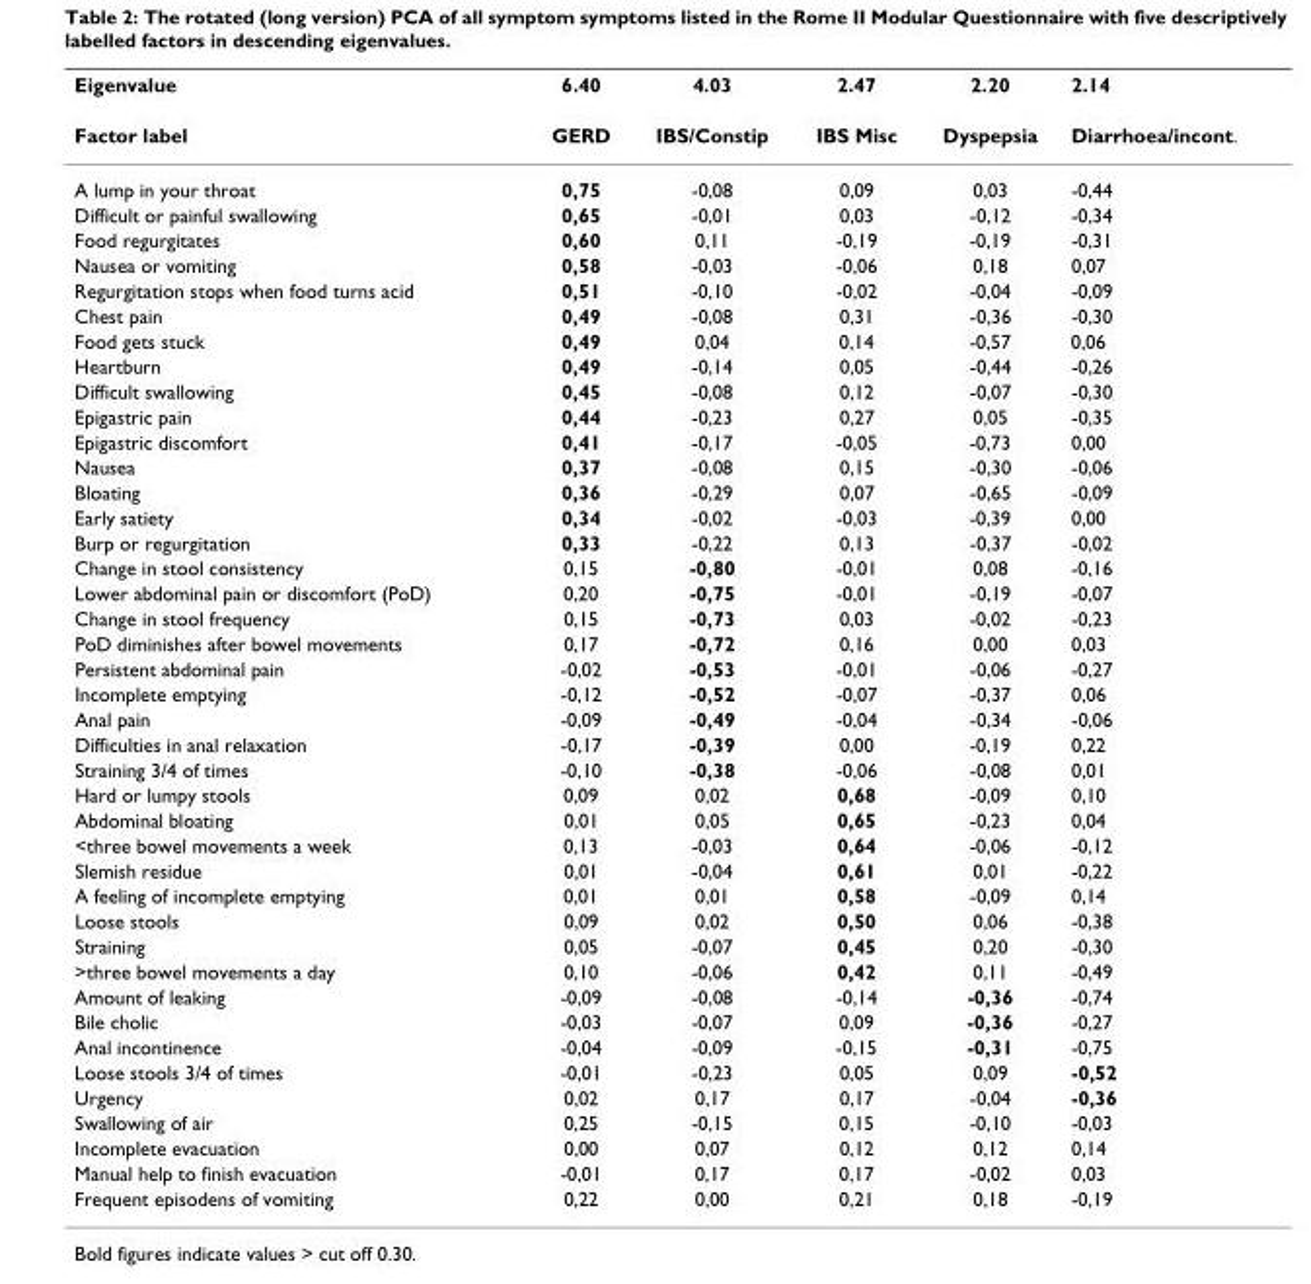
<table><thead><tr><td rowspan="2">Eigenvalue Factor label</td><td rowspan="2">6.40 GERD</td><td rowspan="2">4.03 IBS/Constip</td><td rowspan="2">2.47 IBS Misc</td><td rowspan="2">2.20 Dyspepsia</td><td rowspan="2">2.14 Diarrhoea/incont.</td></tr><tr></tr></thead><tbody><tr><td>A lump in your throat</td><td>0,75</td><td>-0,08</td><td>0,09</td><td>0,03</td><td>-0,44</td></tr><tr><td>Difficult or painful swallowing</td><td>0,65</td><td>-0,01</td><td>0,03</td><td>-0,12</td><td>-0,34</td></tr><tr><td>Food regurgitates</td><td>0,60</td><td>0,11</td><td>-0,19</td><td>-0,19</td><td>-0,31</td></tr><tr><td>Nausea or vomiting</td><td>0,58</td><td>-0,03</td><td>-0,06</td><td>0,18</td><td>0,07</td></tr><tr><td>Regurgitation stops when food turns acid</td><td>0,51</td><td>-0,10</td><td>-0,02</td><td>-0,04</td><td>-0,09</td></tr><tr><td>Chest pain</td><td>0,49</td><td>-0,08</td><td>0,31</td><td>-0,36</td><td>-0,30</td></tr><tr><td>Food gets stuck</td><td>0,49</td><td>0,04</td><td>0,14</td><td>-0,57</td><td>0,06</td></tr><tr><td>Heartburn</td><td>0,49</td><td>-0,14</td><td>0,05</td><td>-0,44</td><td>-0,26</td></tr><tr><td>Difficult swallowing</td><td>0,45</td><td>-0,08</td><td>0,12</td><td>-0,07</td><td>-0,30</td></tr><tr><td>Epigastric pain</td><td>0,44</td><td>-0,23</td><td>0,27</td><td>0,05</td><td>-0,35</td></tr><tr><td>Epigastric discomfort</td><td>0,41</td><td>-0,17</td><td>-0,05</td><td>-0,73</td><td>0,00</td></tr><tr><td>Nausea</td><td>0,37</td><td>-0,08</td><td>0,15</td><td>-0,30</td><td>-0,06</td></tr><tr><td>Bloating</td><td>0,36</td><td>-0,29</td><td>0,07</td><td>-0,65</td><td>-0,09</td></tr><tr><td>Early satiety</td><td>0,34</td><td>-0,02</td><td>-0,03</td><td>-0,39</td><td>0,00</td></tr><tr><td>Burp or regurgitation</td><td>0,33</td><td>-0,22</td><td>0,13</td><td>-0,37</td><td>-0,02</td></tr><tr><td>Change in stool consistency</td><td>0,15</td><td>-0,80</td><td>-0,01</td><td>0,08</td><td>-0,16</td></tr><tr><td>Lower abdominal pain or discomfort (PoD)</td><td>0,20</td><td>-0,75</td><td>-0,01</td><td>-0,19</td><td>-0,07</td></tr><tr><td>Change in stool frequency</td><td>0,15</td><td>-0,73</td><td>0,03</td><td>-0,02</td><td>-0,23</td></tr><tr><td>PoD diminishes after bowel movements</td><td>0,17</td><td>-0,72</td><td>0,16</td><td>0,00</td><td>0,03</td></tr><tr><td>Persistent abdominal pain</td><td>-0,02</td><td>-0,53</td><td>-0,01</td><td>-0,06</td><td>-0,27</td></tr><tr><td>Incomplete emptying</td><td>-0,12</td><td>-0,52</td><td>-0,07</td><td>-0,37</td><td>0,06</td></tr><tr><td>Anal pain</td><td>-0,09</td><td>-0,49</td><td>-0,04</td><td>-0,34</td><td>-0,06</td></tr><tr><td>Difficulties in anal relaxation</td><td>-0,17</td><td>-0,39</td><td>0,00</td><td>-0,19</td><td>0,22</td></tr><tr><td>Straining 3/4 of times</td><td>-0,10</td><td>-0,38</td><td>-0,06</td><td>-0,08</td><td>0,01</td></tr><tr><td>Hard or lumpy stools</td><td>0,09</td><td>0,02</td><td>0,68</td><td>-0,09</td><td>0,10</td></tr><tr><td>Abdominal bloating</td><td>0,01</td><td>0,05</td><td>0,65</td><td>-0,23</td><td>0,04</td></tr><tr><td>&lt;three bowel movements a week</td><td>0,13</td><td>-0,03</td><td>0,64</td><td>-0,06</td><td>-0,12</td></tr><tr><td>Slemish residue</td><td>0,01</td><td>-0,04</td><td>0,61</td><td>0,01</td><td>-0,22</td></tr><tr><td>A feeling of incomplete emptying</td><td>0,01</td><td>0,01</td><td>0,58</td><td>-0,09</td><td>0,14</td></tr><tr><td>Loose stools</td><td>0,09</td><td>0,02</td><td>0,50</td><td>0,06</td><td>-0,38</td></tr><tr><td>Straining</td><td>0,05</td><td>-0,07</td><td>0,45</td><td>0,20</td><td>-0,30</td></tr><tr><td>&gt;three bowel movements a day</td><td>0,10</td><td>-0,06</td><td>0,42</td><td>0,11</td><td>-0,49</td></tr><tr><td>Amount of leaking</td><td>-0,09</td><td>-0,08</td><td>-0,14</td><td>-0,36</td><td>-0,74</td></tr><tr><td>Bile cholic</td><td>-0,03</td><td>-0,07</td><td>0,09</td><td>-0,36</td><td>-0,27</td></tr><tr><td>Anal incontinence</td><td>-0,04</td><td>-0,09</td><td>-0,15</td><td>-0,31</td><td>-0,75</td></tr><tr><td>Loose stools 3/4 of times</td><td>-0,01</td><td>-0,23</td><td>0,05</td><td>0,09</td><td>-0,52</td></tr><tr><td>Urgency</td><td>0,02</td><td>0,17</td><td>0,17</td><td>-0,04</td><td>-0,36</td></tr><tr><td>Swallowing of air</td><td>0,25</td><td>-0,15</td><td>0,15</td><td>-0,10</td><td>-0,03</td></tr><tr><td>Incomplete evacuation</td><td>0,00</td><td>0,07</td><td>0,12</td><td>0,12</td><td>0,14</td></tr><tr><td>Manual help to finish evacuation</td><td>-0,01</td><td>0,17</td><td>0,17</td><td>-0,02</td><td>0,03</td></tr><tr><td>Frequent episodens of vomiting</td><td>0,22</td><td>0,00</td><td>0,21</td><td>0,18</td><td>-0,19</td></tr></tbody></table>